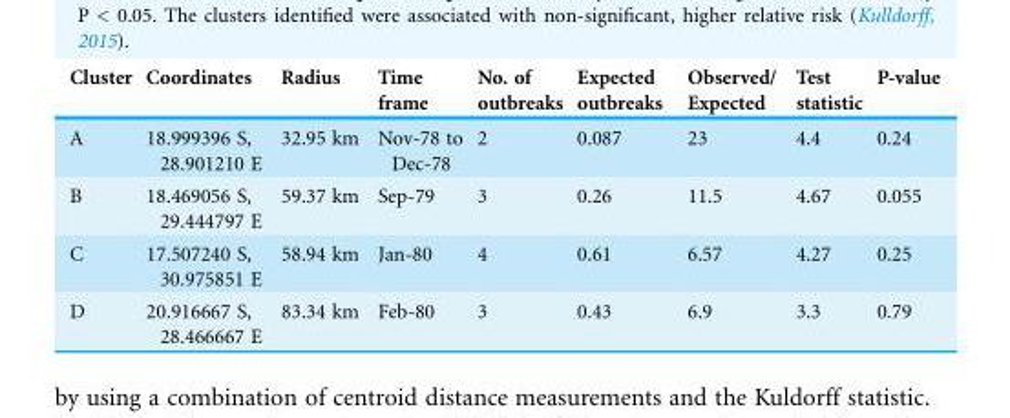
<table><thead><tr><td>Cluster</td><td>Coordinates</td><td>Radius</td><td>Time frame</td><td>No. of outbreaks</td><td>Expected outbreaks</td><td>Observed/ Expected</td><td>Test statistic</td><td>P-value</td></tr></thead><tbody><tr><td>A</td><td>18.999396 S, 28.901210 E</td><td>32.95 km</td><td>Nov-78 to Dec-78</td><td>2</td><td>0.087</td><td>23</td><td>4.4</td><td>0.24</td></tr><tr><td>B</td><td>18.469056 S, 29.444797 E</td><td>59.37 km</td><td>Sep-79</td><td>3</td><td>0.26</td><td>11.5</td><td>4.67</td><td>0.055</td></tr><tr><td>C</td><td>17.507240 S, 30.975851 E</td><td>58.94 km</td><td>Jan-80</td><td>4</td><td>0.61</td><td>6.57</td><td>4.27</td><td>0.25</td></tr><tr><td>D</td><td>20.916667 S, 28.466667 E</td><td>83.34 km</td><td>Feb-80</td><td>3</td><td>0.43</td><td>6.9</td><td>3.3</td><td>0.79</td></tr></tbody></table>